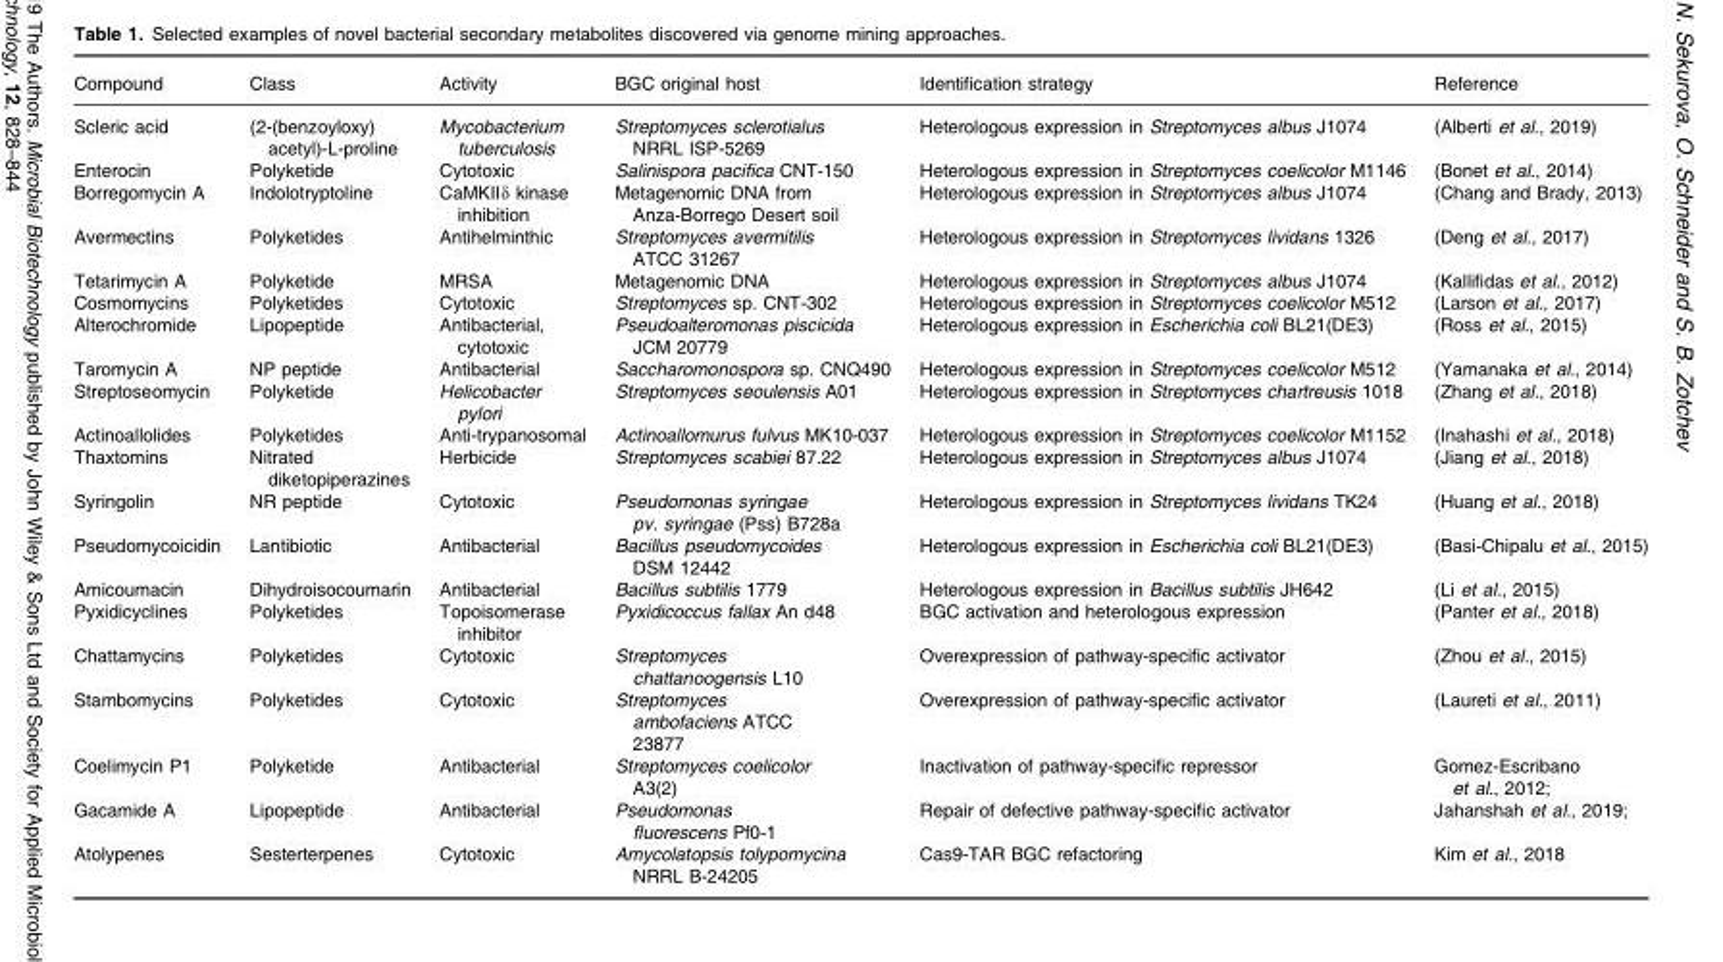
<table><thead><tr><td>Compound</td><td>Class</td><td>Activity</td><td>BGC original host</td><td>Identification strategy</td><td>Reference</td></tr></thead><tbody><tr><td>Scleric acid</td><td>(2-(benzoyloxy) acetyl)-L-proline</td><td>Mycobacterium tuberculosis</td><td>Streptomyces sclerotialus NRRL ISP-5269</td><td>Heterologous expression in Streptomyces albus J1074</td><td>(Alberti et al., 2019)</td></tr><tr><td>Enterocin</td><td>Polyketide</td><td>Cytotoxic</td><td>Salinispora pacifica CNT-150</td><td>Heterologous expression in Streptomyces coelicolor M1146</td><td>(Bonet et al., 2014)</td></tr><tr><td>Borregomycin A</td><td>Indolotryptoline</td><td>CaMKIIδ kinase inhibition</td><td>Metagenomic DNA from Anza-Borrego Desert soil</td><td>Heterologous expression in Streptomyces albus J1074</td><td>(Chang and Brady, 2013)</td></tr><tr><td>Avermectins</td><td>Polyketides</td><td>Antihelminthic</td><td>Streptomyces avermitilis ATCC 31267</td><td>Heterologous expression in Streptomyces lividans 1326</td><td>(Deng et al., 2017)</td></tr><tr><td>Tetarimycin A</td><td>Polyketide</td><td>MRSA</td><td>Metagenomic DNA</td><td>Heterologous expression in Streptomyces albus J1074</td><td>(Kallifidas et al., 2012)</td></tr><tr><td>Cosmomycins</td><td>Polyketides</td><td>Cytotoxic</td><td>Streptomyces sp. CNT-302</td><td>Heterologous expression in Streptomyces coelicolor M512</td><td>(Larson et al., 2017)</td></tr><tr><td>Alterochromide</td><td>Lipopeptide</td><td>Antibacterial, cytotoxic</td><td>Pseudoalteromonas piscicida JCM 20779</td><td>Heterologous expression in Escherichia coli BL21(DE3)</td><td>(Ross et al., 2015)</td></tr><tr><td>Taromycin A</td><td>NP peptide</td><td>Antibacterial</td><td>Saccharomonospora sp. CNQ490</td><td>Heterologous expression in Streptomyces coelicolor M512</td><td>(Yamanaka et al., 2014)</td></tr><tr><td>Streptoseomycin</td><td>Polyketide</td><td>Helicobacter pylori</td><td>Streptomyces seoulensis A01</td><td>Heterologous expression in Streptomyces chartreusis 1018</td><td>(Zhang et al., 2018)</td></tr><tr><td>Actinoallolides</td><td>Polyketides</td><td>Anti-trypanosomal</td><td>Actinoallomurus fulvus MK10-037</td><td>Heterologous expression in Streptomyces coelicolor M1152</td><td>(Inahashi et al., 2018)</td></tr><tr><td>Thaxtomins</td><td>Nitrated diketopiperazines</td><td>Herbicide</td><td>Streptomyces scabiei 87.22</td><td>Heterologous expression in Streptomyces albus J1074</td><td>(Jiang et al., 2018)</td></tr><tr><td>Syringolin</td><td>NR peptide</td><td>Cytotoxic</td><td>Pseudomonas syringae pv. syringae (Pss) B728a</td><td>Heterologous expression in Streptomyces lividans TK24</td><td>(Huang et al., 2018)</td></tr><tr><td>Pseudomycoicidin</td><td>Lantibiotic</td><td>Antibacterial</td><td>Bacillus pseudomycoides DSM 12442</td><td>Heterologous expression in Escherichia coli BL21(DE3)</td><td>(Basi-Chipalu et al., 2015)</td></tr><tr><td>Amicoumacin</td><td>Dihydroisocoumarin</td><td>Antibacterial</td><td>Bacillus subtilis 1779</td><td>Heterologous expression in Bacillus subtilis JH642</td><td>(Li et al., 2015)</td></tr><tr><td>Pyxidicyclines</td><td>Polyketides</td><td>Topoisomerase inhibitor</td><td>Pyxidicoccus fallax An d48</td><td>BGC activation and heterologous expression</td><td>(Panter et al., 2018)</td></tr><tr><td>Chattamycins</td><td>Polyketides</td><td>Cytotoxic</td><td>Streptomyces chattanoogensis L10</td><td>Overexpression of pathway-specific activator</td><td>(Zhou et al., 2015)</td></tr><tr><td>Stambomycins</td><td>Polyketides</td><td>Cytotoxic</td><td>Streptomyces ambofaciens ATCC 23877</td><td>Overexpression of pathway-specific activator</td><td>(Laureti et al., 2011)</td></tr><tr><td>Coelimycin P1</td><td>Polyketide</td><td>Antibacterial</td><td>Streptomyces coelicolor A3(2)</td><td>Inactivation of pathway-specific repressor</td><td>Gomez-Escribano et al., 2012;</td></tr><tr><td>Gacamide A</td><td>Lipopeptide</td><td>Antibacterial</td><td>Pseudomonas fluorescens Pf0-1</td><td>Repair of defective pathway-specific activator</td><td>Jahanshah et al., 2019;</td></tr><tr><td>Atolypenes</td><td>Sesterterpenes</td><td>Cytotoxic</td><td>Amycolatopsis tolypomycina NRRL B-24205</td><td>Cas9-TAR BGC refactoring</td><td>Kim et al., 2018</td></tr></tbody></table>